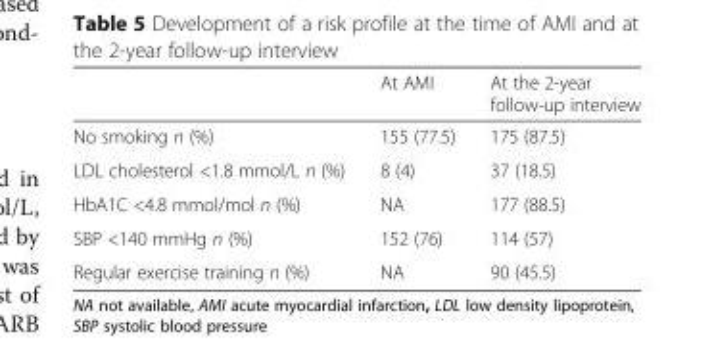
<table><thead><tr><td></td><td>At AMI</td><td>At the 2-year follow-up interview</td></tr></thead><tbody><tr><td>No smoking n (%)</td><td>155 (77.5)</td><td>175 (87.5)</td></tr><tr><td>LDL cholesterol &lt;1.8 mmol/L n (%)</td><td>8 (4)</td><td>37 (18.5)</td></tr><tr><td>HbA1C &lt;4.8 mmol/mol n (%)</td><td>NA</td><td>177 (88.5)</td></tr><tr><td>SBP &lt;140 mmHg n (%)</td><td>152 (76)</td><td>114 (57)</td></tr><tr><td>Regular exercise training n (%)</td><td>NA</td><td>90 (45.5)</td></tr></tbody></table>